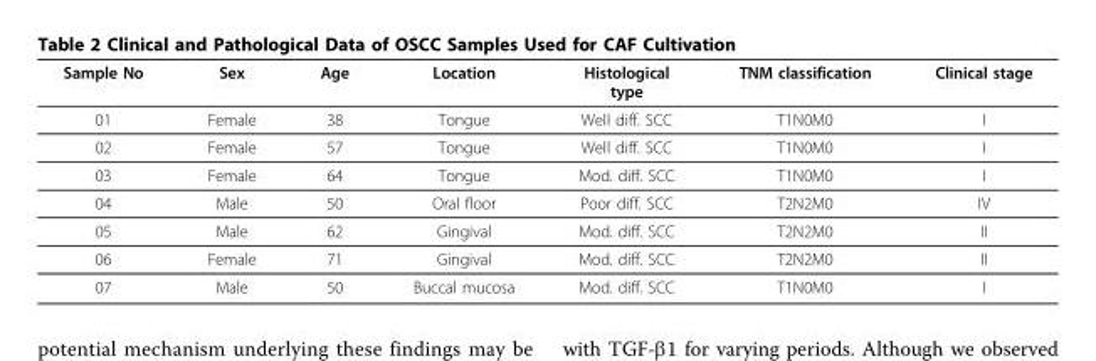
<table><thead><tr><td>Sample No</td><td>Sex</td><td>Age</td><td>Location</td><td>Histological type</td><td>TNM classification</td><td>Clinical stage</td></tr></thead><tbody><tr><td>01</td><td>Female</td><td>38</td><td>Tongue</td><td>Well diff. SCC</td><td>T1N0M0</td><td>I</td></tr><tr><td>02</td><td>Female</td><td>57</td><td>Tongue</td><td>Well diff. SCC</td><td>T1N0M0</td><td>I</td></tr><tr><td>03</td><td>Female</td><td>64</td><td>Tongue</td><td>Mod. diff. SCC</td><td>T1N0M0</td><td>I</td></tr><tr><td>04</td><td>Male</td><td>50</td><td>Oral floor</td><td>Poor diff. SCC</td><td>T2N2M0</td><td>IV</td></tr><tr><td>05</td><td>Male</td><td>62</td><td>Gingival</td><td>Mod. diff. SCC</td><td>T2N2M0</td><td>II</td></tr><tr><td>06</td><td>Female</td><td>71</td><td>Gingival</td><td>Mod. diff. SCC</td><td>T2N2M0</td><td>II</td></tr><tr><td>07</td><td>Male</td><td>50</td><td>Buccal mucosa</td><td>Mod. diff. SCC</td><td>T1N0M0</td><td>I</td></tr></tbody></table>